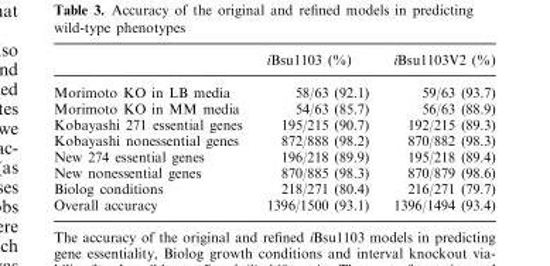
<table><thead><tr><td></td><td>iBsu1103 (%)</td><td>iBsu1103V2 (%)</td></tr></thead><tbody><tr><td>Morimoto KO in LB media</td><td>58/63 (92.1)</td><td>59/63 (93.7)</td></tr><tr><td>Morimoto KO in MM media</td><td>54/63 (85.7)</td><td>56/63 (88.9)</td></tr><tr><td>Kobayashi 271 essential genes</td><td>195/215 (90.7)</td><td>192/215 (89.3)</td></tr><tr><td>Kobayashi nonessential genes</td><td>872/888 (98.2)</td><td>870/882 (98.3)</td></tr><tr><td>New 274 essential genes</td><td>196/218 (89.9)</td><td>195/218 (89.4)</td></tr><tr><td>New nonessential genes</td><td>870/885 (98.3)</td><td>870/879 (98.6)</td></tr><tr><td>Biolog conditions</td><td>218/271 (80.4)</td><td>216/271 (79.7)</td></tr><tr><td>Overall accuracy</td><td>1396/1500 (93.1)</td><td>1396/1494 (93.4)</td></tr></tbody></table>